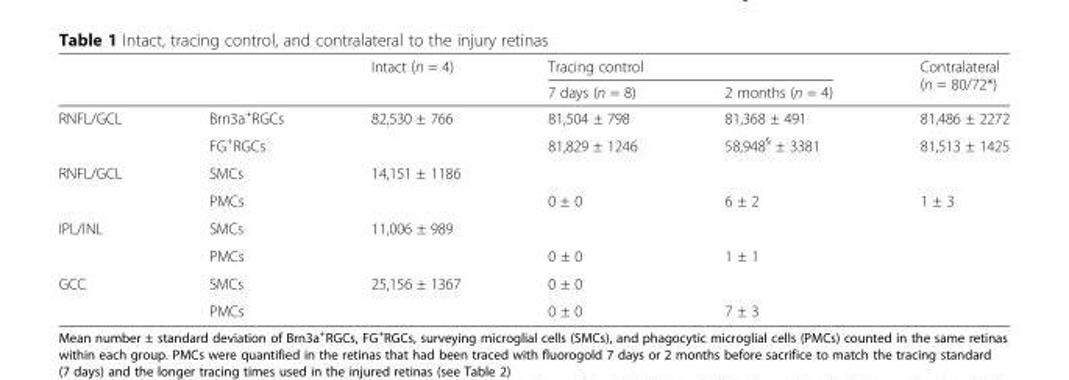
<table><thead><tr><td rowspan="2"></td><td rowspan="2"></td><td rowspan="2">Intact (n = 4)</td><td colspan="2">Tracing control</td><td rowspan="2">Contralateral (n = 80/72*)</td></tr><tr><td>7 days (n = 8)</td><td>2 months (n = 4)</td></tr></thead><tbody><tr><td rowspan="2">RNFL/GCL</td><td>Brn3a<sup>+</sup>RGCs</td><td>82,530 ± 766</td><td>81,504 ± 798</td><td>81,368 ± 491</td><td>81,486 ± 2272</td></tr><tr><td>FG<sup>+</sup>RGCs</td><td></td><td>81,829 ± 1246</td><td>58,948<sup>§</sup> ± 3381</td><td>81,513 ± 1425</td></tr><tr><td rowspan="2">RNFL/GCL</td><td>SMCs</td><td>14,151 ± 1186</td><td></td><td></td><td></td></tr><tr><td>PMCs</td><td></td><td>0 ± 0</td><td>6 ± 2</td><td>1 ± 3</td></tr><tr><td rowspan="2">IPL/INL</td><td>SMCs</td><td>11,006 ± 989</td><td></td><td></td><td></td></tr><tr><td>PMCs</td><td></td><td>0 ± 0</td><td>1 ± 1</td><td></td></tr><tr><td rowspan="2">GCC</td><td>SMCs</td><td>25,156 ± 1367</td><td>0 ± 0</td><td></td><td></td></tr><tr><td>PMCs</td><td></td><td>0 ± 0</td><td>7 ± 3</td><td></td></tr></tbody></table>